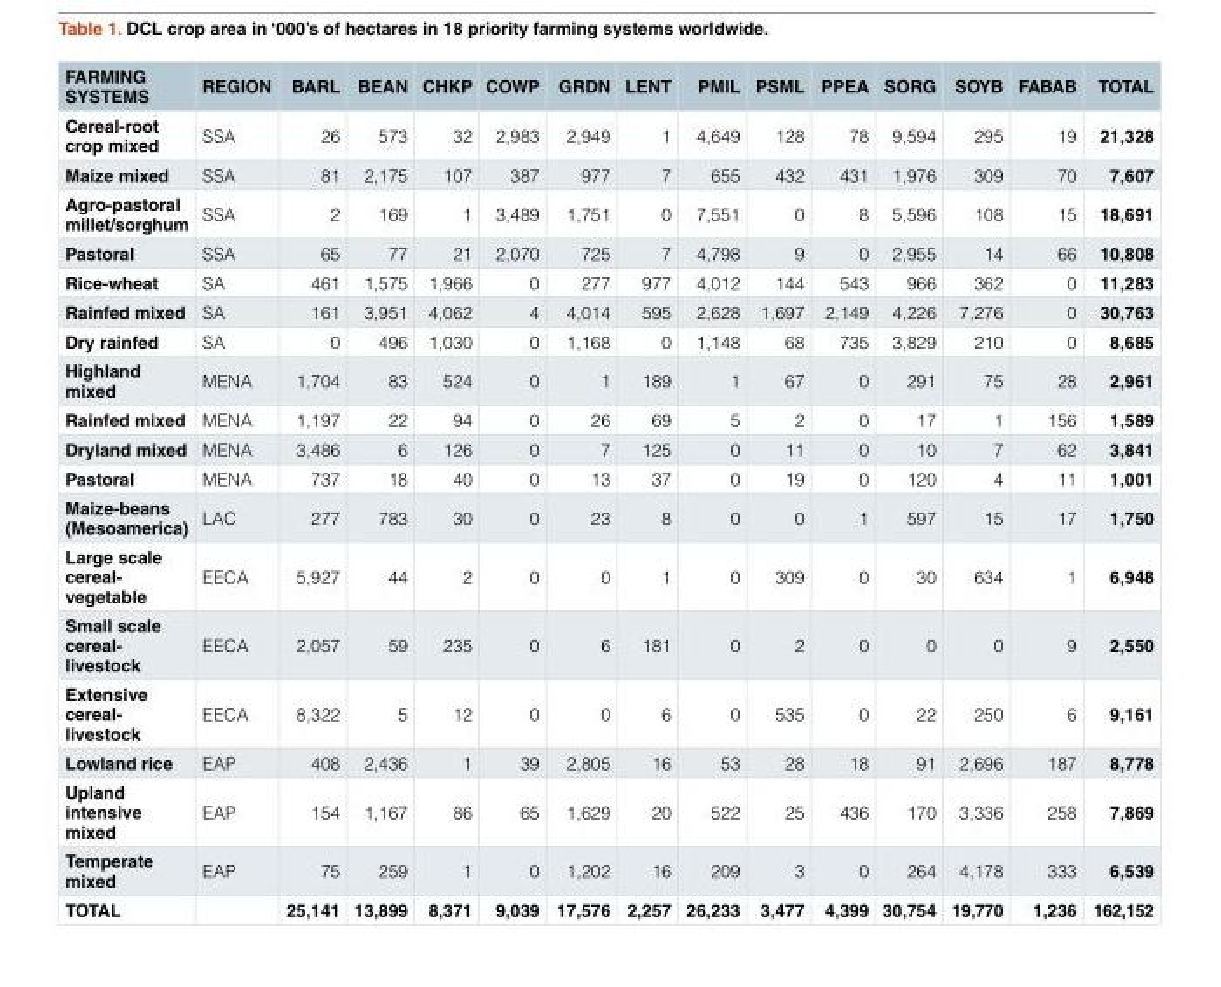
<table><thead><tr><td>FARMING SYSTEMS</td><td>REGION</td><td>BARL</td><td>BEAN</td><td>CHKP</td><td>COWP</td><td>GRDN</td><td>LENT</td><td>PMIL</td><td>PSML</td><td>PPEA</td><td>SORG</td><td>SOYB</td><td>FABAB</td><td>TOTAL</td></tr></thead><tbody><tr><td>Cereal-root crop mixed</td><td>SSA</td><td>26</td><td>573</td><td>32</td><td>2,983</td><td>2,949</td><td>1</td><td>4,649</td><td>128</td><td>78</td><td>9,594</td><td>295</td><td>19</td><td>21,328</td></tr><tr><td>Maize mixed</td><td>SSA</td><td>81</td><td>2,175</td><td>107</td><td>387</td><td>977</td><td>7</td><td>655</td><td>432</td><td>431</td><td>1,976</td><td>309</td><td>70</td><td>7,607</td></tr><tr><td>Agro-pastoral millet/sorghum</td><td>SSA</td><td>2</td><td>169</td><td>1</td><td>3,489</td><td>1,751</td><td>0</td><td>7,551</td><td>0</td><td>8</td><td>5,596</td><td>108</td><td>15</td><td>18,691</td></tr><tr><td>Pastoral</td><td>SSA</td><td>65</td><td>77</td><td>21</td><td>2,070</td><td>725</td><td>7</td><td>4,798</td><td>9</td><td>0</td><td>2,955</td><td>14</td><td>66</td><td>10,808</td></tr><tr><td>Rice-wheat</td><td>SA</td><td>461</td><td>1,575</td><td>1,966</td><td>0</td><td>277</td><td>977</td><td>4,012</td><td>144</td><td>543</td><td>966</td><td>362</td><td>0</td><td>11,283</td></tr><tr><td>Rainfed mixed</td><td>SA</td><td>161</td><td>3,951</td><td>4,062</td><td>4</td><td>4,014</td><td>595</td><td>2,628</td><td>1,697</td><td>2,149</td><td>4,226</td><td>7,276</td><td>0</td><td>30,763</td></tr><tr><td>Dry rainfed</td><td>SA</td><td>0</td><td>496</td><td>1,030</td><td>0</td><td>1,168</td><td>0</td><td>1,148</td><td>68</td><td>735</td><td>3,829</td><td>210</td><td>0</td><td>8,685</td></tr><tr><td>Highland mixed</td><td>MENA</td><td>1,704</td><td>83</td><td>524</td><td>0</td><td>1</td><td>189</td><td>1</td><td>67</td><td>0</td><td>291</td><td>75</td><td>28</td><td>2,961</td></tr><tr><td>Rainfed mixed</td><td>MENA</td><td>1,197</td><td>22</td><td>94</td><td>0</td><td>26</td><td>69</td><td>5</td><td>2</td><td>0</td><td>17</td><td>1</td><td>156</td><td>1,589</td></tr><tr><td>Dryland mixed</td><td>MENA</td><td>3,486</td><td>6</td><td>126</td><td>0</td><td>7</td><td>125</td><td>0</td><td>11</td><td>0</td><td>10</td><td>7</td><td>62</td><td>3,841</td></tr><tr><td>Pastoral</td><td>MENA</td><td>737</td><td>18</td><td>40</td><td>0</td><td>13</td><td>37</td><td>0</td><td>19</td><td>0</td><td>120</td><td>4</td><td>11</td><td>1,001</td></tr><tr><td>Maize-beans (Mesoamerica)</td><td>LAC</td><td>277</td><td>783</td><td>30</td><td>0</td><td>23</td><td>8</td><td>0</td><td>0</td><td>1</td><td>597</td><td>15</td><td>17</td><td>1,750</td></tr><tr><td>Large scale cereal- vegetable</td><td>EECA</td><td>5,927</td><td>44</td><td>2</td><td>0</td><td>0</td><td>1</td><td>0</td><td>309</td><td>0</td><td>30</td><td>634</td><td>1</td><td>6,948</td></tr><tr><td>Small scale cereal- livestock</td><td>EECA</td><td>2,057</td><td>59</td><td>235</td><td>0</td><td>6</td><td>181</td><td>0</td><td>2</td><td>0</td><td>0</td><td>0</td><td>9</td><td>2,550</td></tr><tr><td>Extensive cereal- livestock</td><td>EECA</td><td>8,322</td><td>5</td><td>12</td><td>0</td><td>0</td><td>6</td><td>0</td><td>535</td><td>0</td><td>22</td><td>250</td><td>6</td><td>9,161</td></tr><tr><td>Lowland rice</td><td>EAP</td><td>408</td><td>2,436</td><td>1</td><td>39</td><td>2,805</td><td>16</td><td>53</td><td>28</td><td>18</td><td>91</td><td>2,696</td><td>187</td><td>8,778</td></tr><tr><td>Upland intensive mixed</td><td>EAP</td><td>154</td><td>1,167</td><td>86</td><td>65</td><td>1,629</td><td>20</td><td>522</td><td>25</td><td>436</td><td>170</td><td>3,336</td><td>258</td><td>7,869</td></tr><tr><td>Temperate mixed</td><td>EAP</td><td>75</td><td>259</td><td>1</td><td>0</td><td>1,202</td><td>16</td><td>209</td><td>3</td><td>0</td><td>264</td><td>4,178</td><td>333</td><td>6,539</td></tr><tr><td>TOTAL</td><td></td><td>25,141</td><td>13,899</td><td>8,371</td><td>9,039</td><td>17,576</td><td>2,257</td><td>26,233</td><td>3,477</td><td>4,399</td><td>30,754</td><td>19,770</td><td>1,236</td><td>162,152</td></tr></tbody></table>